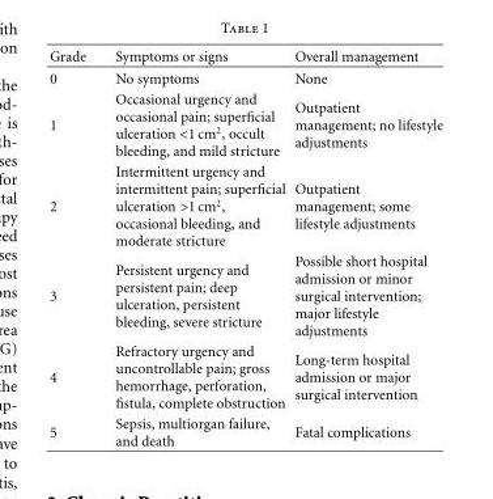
<table><thead><tr><td>Grade</td><td>Symptoms or signs</td><td>Overall management</td></tr></thead><tbody><tr><td>0</td><td>No symptoms</td><td>None</td></tr><tr><td>1</td><td>Occasional urgency and occasional pain; superficial ulceration &lt;1 cm<sup>2</sup>, occult bleeding, and mild stricture</td><td>Outpatient management; no lifestyle adjustments</td></tr><tr><td>2</td><td>Intermittent urgency and intermittent pain; superficial ulceration &gt;1 cm<sup>2</sup>, occasional bleeding, and moderate stricture</td><td>Outpatient management; some lifestyle adjustments</td></tr><tr><td>3</td><td>Persistent urgency and persistent pain; deep ulceration, persistent bleeding, severe stricture</td><td>Possible short hospital admission or minor surgical intervention; major lifestyle adjustments</td></tr><tr><td>4</td><td>Refractory urgency and uncontrollable pain; gross hemorrhage, perforation, fistula, complete obstruction</td><td>Long-term hospital admission or major surgical intervention</td></tr><tr><td>5</td><td>Sepsis, multiorgan failure, and death</td><td>Fatal complications</td></tr></tbody></table>